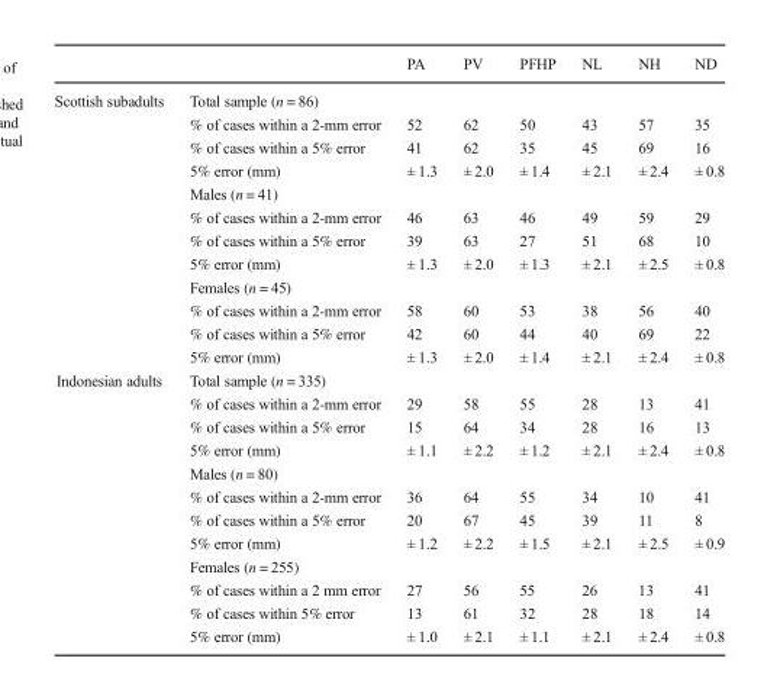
<table><thead><tr><td></td><td></td><td>PA</td><td>PV</td><td>PFHP</td><td>NL</td><td>NH</td><td>ND</td></tr></thead><tbody><tr><td rowspan="12">Scottish subadults</td><td>Total sample (n = 86)</td><td></td><td></td><td></td><td></td><td></td><td></td></tr><tr><td>% of cases within a 2-mm error</td><td>52</td><td>62</td><td>50</td><td>43</td><td>57</td><td>35</td></tr><tr><td>% of cases within a 5% error</td><td>41</td><td>62</td><td>35</td><td>45</td><td>69</td><td>16</td></tr><tr><td>5% error (mm)</td><td>± 1.3</td><td>± 2.0</td><td>± 1.4</td><td>± 2.1</td><td>± 2.4</td><td>± 0.8</td></tr><tr><td>Males (n = 41)</td><td></td><td></td><td></td><td></td><td></td><td></td></tr><tr><td>% of cases within a 2-mm error</td><td>46</td><td>63</td><td>46</td><td>49</td><td>59</td><td>29</td></tr><tr><td>% of cases within a 5% error</td><td>39</td><td>63</td><td>27</td><td>51</td><td>68</td><td>10</td></tr><tr><td>5% error (mm)</td><td>± 1.3</td><td>± 2.0</td><td>± 1.3</td><td>± 2.1</td><td>± 2.5</td><td>± 0.8</td></tr><tr><td>Females (n = 45)</td><td></td><td></td><td></td><td></td><td></td><td></td></tr><tr><td>% of cases within a 2-mm error</td><td>58</td><td>60</td><td>53</td><td>38</td><td>56</td><td>40</td></tr><tr><td>% of cases within a 5% error</td><td>42</td><td>60</td><td>44</td><td>40</td><td>69</td><td>22</td></tr><tr><td>5% error (mm)</td><td>± 1.3</td><td>± 2.0</td><td>± 1.4</td><td>± 2.1</td><td>± 2.4</td><td>± 0.8</td></tr><tr><td rowspan="12">Indonesian adults</td><td>Total sample (n = 335)</td><td></td><td></td><td></td><td></td><td></td><td></td></tr><tr><td>% of cases within a 2-mm error</td><td>29</td><td>58</td><td>55</td><td>28</td><td>13</td><td>41</td></tr><tr><td>% of cases within a 5% error</td><td>15</td><td>64</td><td>34</td><td>28</td><td>16</td><td>13</td></tr><tr><td>5% error (mm)</td><td>± 1.1</td><td>± 2.2</td><td>± 1.2</td><td>± 2.1</td><td>± 2.4</td><td>± 0.8</td></tr><tr><td>Males (n = 80)</td><td></td><td></td><td></td><td></td><td></td><td></td></tr><tr><td>% of cases within a 2-mm error</td><td>36</td><td>64</td><td>55</td><td>34</td><td>10</td><td>41</td></tr><tr><td>% of cases within a 5% error</td><td>20</td><td>67</td><td>45</td><td>39</td><td>11</td><td>8</td></tr><tr><td>5% error (mm)</td><td>± 1.2</td><td>± 2.2</td><td>± 1.5</td><td>± 2.1</td><td>± 2.5</td><td>± 0.9</td></tr><tr><td>Females (n = 255)</td><td></td><td></td><td></td><td></td><td></td><td></td></tr><tr><td>% of cases within a 2 mm error</td><td>27</td><td>56</td><td>55</td><td>26</td><td>13</td><td>41</td></tr><tr><td>% of cases within 5% error</td><td>13</td><td>61</td><td>32</td><td>28</td><td>18</td><td>14</td></tr><tr><td>5% error (mm)</td><td>± 1.0</td><td>± 2.1</td><td>± 1.1</td><td>± 2.1</td><td>± 2.4</td><td>± 0.8</td></tr></tbody></table>